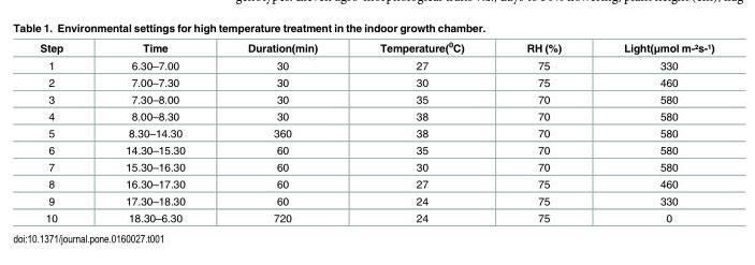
<table><thead><tr><td>Step</td><td>Time</td><td>Duration(min)</td><td>Temperature(<sup>0</sup>C)</td><td>RH (%)</td><td>Light(μmol m-²s-¹)</td></tr></thead><tbody><tr><td>1</td><td>6.30–7.00</td><td>30</td><td>27</td><td>75</td><td>330</td></tr><tr><td>2</td><td>7.00–7.30</td><td>30</td><td>30</td><td>75</td><td>460</td></tr><tr><td>3</td><td>7.30–8.00</td><td>30</td><td>35</td><td>70</td><td>580</td></tr><tr><td>4</td><td>8.00–8.30</td><td>30</td><td>38</td><td>70</td><td>580</td></tr><tr><td>5</td><td>8.30–14.30</td><td>360</td><td>38</td><td>70</td><td>580</td></tr><tr><td>6</td><td>14.30–15.30</td><td>60</td><td>35</td><td>70</td><td>580</td></tr><tr><td>7</td><td>15.30–16.30</td><td>60</td><td>30</td><td>70</td><td>580</td></tr><tr><td>8</td><td>16.30–17.30</td><td>60</td><td>27</td><td>75</td><td>460</td></tr><tr><td>9</td><td>17.30–18.30</td><td>60</td><td>24</td><td>75</td><td>330</td></tr><tr><td>10</td><td>18.30–6.30</td><td>720</td><td>24</td><td>75</td><td>0</td></tr></tbody></table>